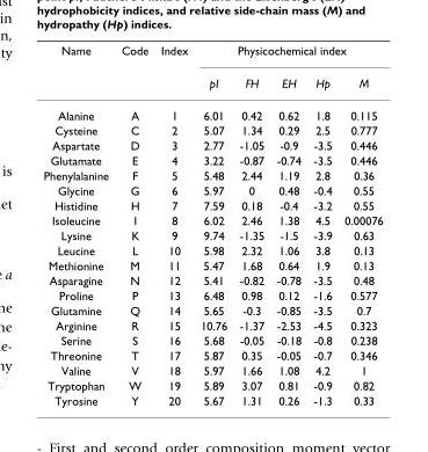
<table><thead><tr><td rowspan="2">Name</td><td rowspan="2">Code</td><td rowspan="2">Index</td><td colspan="5">Physicochemical index</td></tr><tr><td>pI</td><td>FH</td><td>EH</td><td>Hp</td><td>M</td></tr></thead><tbody><tr><td>Alanine</td><td>A</td><td>1</td><td>6.01</td><td>0.42</td><td>0.62</td><td>1.8</td><td>0.115</td></tr><tr><td>Cysteine</td><td>C</td><td>2</td><td>5.07</td><td>1.34</td><td>0.29</td><td>2.5</td><td>0.777</td></tr><tr><td>Aspartate</td><td>D</td><td>3</td><td>2.77</td><td>-1.05</td><td>-0.9</td><td>-3.5</td><td>0.446</td></tr><tr><td>Glutamate</td><td>E</td><td>4</td><td>3.22</td><td>-0.87</td><td>-0.74</td><td>-3.5</td><td>0.446</td></tr><tr><td>Phenylalanine</td><td>F</td><td>5</td><td>5.48</td><td>2.44</td><td>1.19</td><td>2.8</td><td>0.36</td></tr><tr><td>Glycine</td><td>G</td><td>6</td><td>5.97</td><td>0</td><td>0.48</td><td>-0.4</td><td>0.55</td></tr><tr><td>Histidine</td><td>H</td><td>7</td><td>7.59</td><td>0.18</td><td>-0.4</td><td>-3.2</td><td>0.55</td></tr><tr><td>Isoleucine</td><td>I</td><td>8</td><td>6.02</td><td>2.46</td><td>1.38</td><td>4.5</td><td>0.00076</td></tr><tr><td>Lysine</td><td>K</td><td>9</td><td>9.74</td><td>-1.35</td><td>-1.5</td><td>-3.9</td><td>0.63</td></tr><tr><td>Leucine</td><td>L</td><td>10</td><td>5.98</td><td>2.32</td><td>1.06</td><td>3.8</td><td>0.13</td></tr><tr><td>Methionine</td><td>M</td><td>11</td><td>5.47</td><td>1.68</td><td>0.64</td><td>1.9</td><td>0.13</td></tr><tr><td>Asparagine</td><td>N</td><td>12</td><td>5.41</td><td>-0.82</td><td>-0.78</td><td>-3.5</td><td>0.48</td></tr><tr><td>Proline</td><td>P</td><td>13</td><td>6.48</td><td>0.98</td><td>0.12</td><td>-1.6</td><td>0.577</td></tr><tr><td>Glutamine</td><td>Q</td><td>14</td><td>5.65</td><td>-0.3</td><td>-0.85</td><td>-3.5</td><td>0.7</td></tr><tr><td>Arginine</td><td>R</td><td>15</td><td>10.76</td><td>-1.37</td><td>-2.53</td><td>-4.5</td><td>0.323</td></tr><tr><td>Serine</td><td>S</td><td>16</td><td>5.68</td><td>-0.05</td><td>-0.18</td><td>-0.8</td><td>0.238</td></tr><tr><td>Threonine</td><td>T</td><td>17</td><td>5.87</td><td>0.35</td><td>-0.05</td><td>-0.7</td><td>0.346</td></tr><tr><td>Valine</td><td>V</td><td>18</td><td>5.97</td><td>1.66</td><td>1.08</td><td>4.2</td><td>1</td></tr><tr><td>Tryptophan</td><td>W</td><td>19</td><td>5.89</td><td>3.07</td><td>0.81</td><td>-0.9</td><td>0.82</td></tr><tr><td>Tyrosine</td><td>Y</td><td>20</td><td>5.67</td><td>1.31</td><td>0.26</td><td>-1.3</td><td>0.33</td></tr></tbody></table>